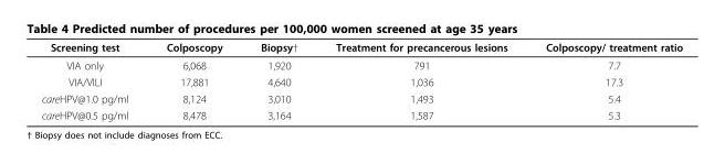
<table><tbody><tr><td>Screening test</td><td>Colposcopy</td><td>Biopsy†</td><td>Treatment for precancerous lesions</td><td>Colposcopy/ treatment ratio</td></tr><tr><td>VIA only</td><td>6,068</td><td>1,920</td><td>791</td><td>7.7</td></tr><tr><td>VIA/VILI</td><td>17,881</td><td>4,640</td><td>1,036</td><td>17.3</td></tr><tr><td>careHPV@1.0 pg/ml</td><td>8,124</td><td>3,010</td><td>1,493</td><td>5.4</td></tr><tr><td>careHPV@0.5 pg/ml</td><td>8,478</td><td>3,164</td><td>1,587</td><td>5.3</td></tr></tbody></table>